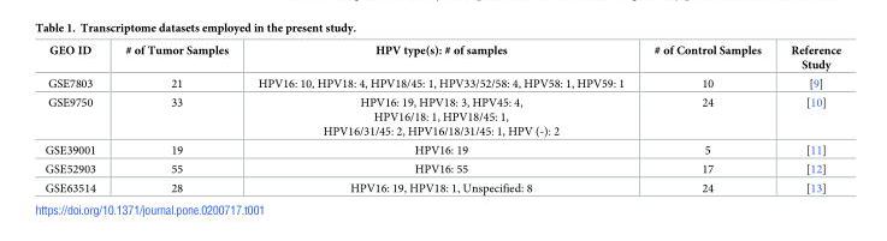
<table><thead><tr><td>GEO ID</td><td># of Tumor Samples</td><td>HPV type(s): # of samples</td><td># of Control Samples</td><td>Reference Study</td></tr></thead><tbody><tr><td>GSE7803</td><td>21</td><td>HPV16: 10, HPV18: 4, HPV18/45: 1, HPV33/52/58: 4, HPV58: 1, HPV59: 1</td><td>10</td><td>[9]</td></tr><tr><td>GSE9750</td><td>33</td><td>HPV16: 19, HPV18: 3, HPV45: 4, HPV16/18: 1, HPV18/45: 1, HPV16/31/45: 2, HPV16/18/31/45: 1, HPV (-): 2</td><td>24</td><td>[10]</td></tr><tr><td>GSE39001</td><td>19</td><td>HPV16: 19</td><td>5</td><td>[11]</td></tr><tr><td>GSE52903</td><td>55</td><td>HPV16: 55</td><td>17</td><td>[12]</td></tr><tr><td>GSE63514</td><td>28</td><td>HPV16: 19, HPV18: 1, Unspecified: 8</td><td>24</td><td>[13]</td></tr></tbody></table>